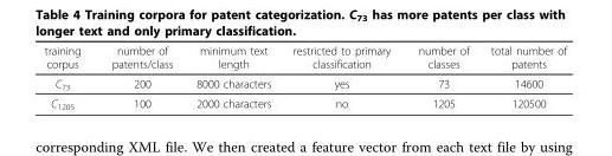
<table><thead><tr><td>training corpus</td><td>number of patents/class</td><td>minimum text length</td><td>restricted to primary classification</td><td>number of classes</td><td>total number of patents</td></tr></thead><tbody><tr><td>C<sub>73</sub></td><td>200</td><td>8000 characters</td><td>yes</td><td>73</td><td>14600</td></tr><tr><td>C<sub>1205</sub></td><td>100</td><td>2000 characters</td><td>no</td><td>1205</td><td>120500</td></tr></tbody></table>